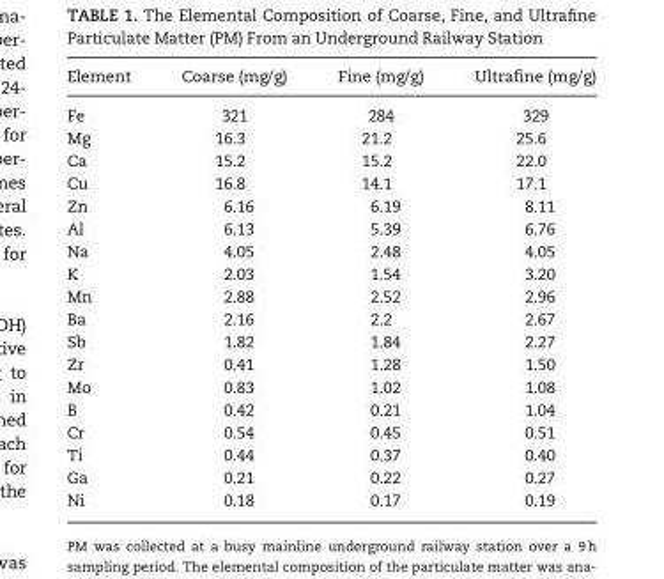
<table><thead><tr><td>Element</td><td>Coarse (mg/g)</td><td>Fine (mg/g)</td><td>Ultrafine (mg/g)</td></tr></thead><tbody><tr><td>Fe</td><td>321</td><td>284</td><td>329</td></tr><tr><td>Mg</td><td>16.3</td><td>21.2</td><td>25.6</td></tr><tr><td>Ca</td><td>15.2</td><td>15.2</td><td>22.0</td></tr><tr><td>Cu</td><td>16.8</td><td>14.1</td><td>17.1</td></tr><tr><td>Zn</td><td>6.16</td><td>6.19</td><td>8.11</td></tr><tr><td>Al</td><td>6.13</td><td>5.39</td><td>6.76</td></tr><tr><td>Na</td><td>4.05</td><td>2.48</td><td>4.05</td></tr><tr><td>K</td><td>2.03</td><td>1.54</td><td>3.20</td></tr><tr><td>Mn</td><td>2.88</td><td>2.52</td><td>2.96</td></tr><tr><td>Ba</td><td>2.16</td><td>2.2</td><td>2.67</td></tr><tr><td>Sb</td><td>1.82</td><td>1.84</td><td>2.27</td></tr><tr><td>Zr</td><td>0.41</td><td>1.28</td><td>1.50</td></tr><tr><td>Mo</td><td>0.83</td><td>1.02</td><td>1.08</td></tr><tr><td>B</td><td>0.42</td><td>0.21</td><td>1.04</td></tr><tr><td>Cr</td><td>0.54</td><td>0.45</td><td>0.51</td></tr><tr><td>Ti</td><td>0.44</td><td>0.37</td><td>0.40</td></tr><tr><td>Ga</td><td>0.21</td><td>0.22</td><td>0.27</td></tr><tr><td>Ni</td><td>0.18</td><td>0.17</td><td>0.19</td></tr></tbody></table>